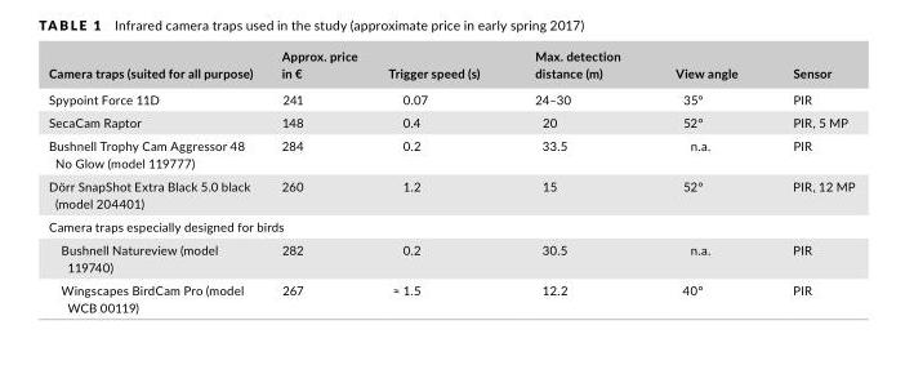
<table><thead><tr><td>Camera traps (suited for all purpose)</td><td>Approx. price in €</td><td>Trigger speed (s)</td><td>Max. detection distance (m)</td><td>View angle</td><td>Sensor</td></tr></thead><tbody><tr><td>Spypoint Force 11D</td><td>241</td><td>0.07</td><td>24–30</td><td>35°</td><td>PIR</td></tr><tr><td>SecaCam Raptor</td><td>148</td><td>0.4</td><td>20</td><td>52°</td><td>PIR, 5 MP</td></tr><tr><td>Bushnell Trophy Cam Aggressor 48 No Glow (model 119777)</td><td>284</td><td>0.2</td><td>33.5</td><td>n.a.</td><td>PIR</td></tr><tr><td>Dörr SnapShot Extra Black 5.0 black (model 204401)</td><td>260</td><td>1.2</td><td>15</td><td>52°</td><td>PIR, 12 MP</td></tr><tr><td colspan="6">Camera traps especially designed for birds</td></tr><tr><td>Bushnell Natureview (model 119740)</td><td>282</td><td>0.2</td><td>30.5</td><td>n.a.</td><td>PIR</td></tr><tr><td>Wingscapes BirdCam Pro (model WCB 00119)</td><td>267</td><td>≈ 1.5</td><td>12.2</td><td>40°</td><td>PIR</td></tr></tbody></table>